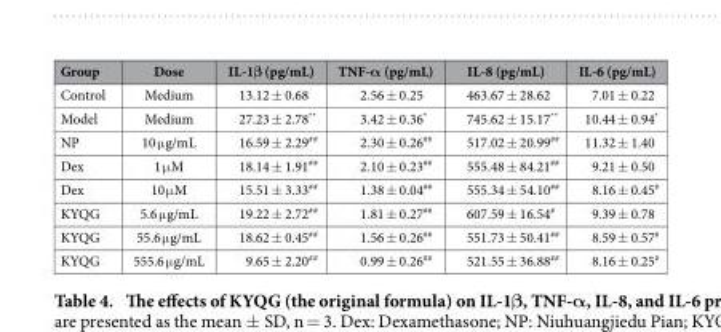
<table><thead><tr><td>Group</td><td>Dose</td><td>IL-1β (pg/mL)</td><td>TNF-α (pg/mL)</td><td>IL-8 (pg/mL)</td><td>IL-6 (pg/mL)</td></tr></thead><tbody><tr><td>Control</td><td>Medium</td><td>13.12 ± 0.68</td><td>2.56 ± 0.25</td><td>463.67 ± 28.62</td><td>7.01 ± 0.22</td></tr><tr><td>Model</td><td>Medium</td><td>27.23 ± 2.78**</td><td>3.42 ± 0.36*</td><td>745.62 ± 15.17**</td><td>10.44 ± 0.94*</td></tr><tr><td>NP</td><td>10 μ g/mL</td><td>16.59 ± 2.29<sup>##</sup></td><td>2.30 ± 0.26<sup>##</sup></td><td>517.02 ± 20.99<sup>##</sup></td><td>11.32 ± 1.40</td></tr><tr><td>Dex</td><td>1 μ M</td><td>18.14 ± 1.91<sup>##</sup></td><td>2.10 ± 0.23<sup>##</sup></td><td>555.48 ± 84.21<sup>##</sup></td><td>9.21 ± 0.50</td></tr><tr><td>Dex</td><td>10 μ M</td><td>15.51 ± 3.33<sup>##</sup></td><td>1.38 ± 0.04<sup>##</sup></td><td>555.34 ± 54.10<sup>##</sup></td><td>8.16 ± 0.45<sup>#</sup></td></tr><tr><td>KYQG</td><td>5.6 μ g/mL</td><td>19.22 ± 2.72<sup>##</sup></td><td>1.81 ± 0.27<sup>##</sup></td><td>607.59 ± 16.54<sup>#</sup></td><td>9.39 ± 0.78</td></tr><tr><td>KYQG</td><td>55.6 μ g/mL</td><td>18.62 ± 0.45<sup>##</sup></td><td>1.56 ± 0.26<sup>##</sup></td><td>551.73 ± 50.41<sup>##</sup></td><td>8.59 ± 0.57<sup>#</sup></td></tr><tr><td>KYQG</td><td>555.6 μ g/mL</td><td>9.65 ± 2.20<sup>##</sup></td><td>0.99 ± 0.26<sup>##</sup></td><td>521.55 ± 36.88<sup>##</sup></td><td>8.16 ± 0.25<sup>#</sup></td></tr></tbody></table>